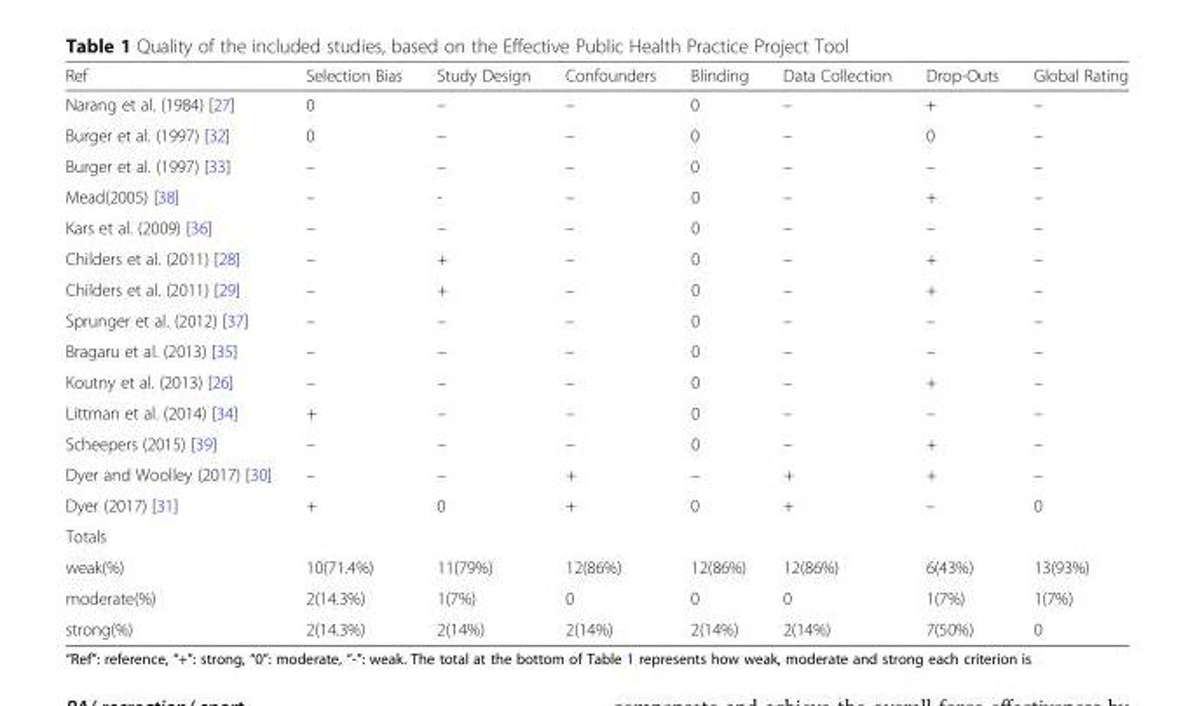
<table><thead><tr><td>Ref</td><td>Selection Bias</td><td>Study Design</td><td>Confounders</td><td>Blinding</td><td>Data Collection</td><td>Drop-Outs</td><td>Global Rating</td></tr></thead><tbody><tr><td>Narang et al. (1984) [27]</td><td>0</td><td>–</td><td>–</td><td>0</td><td>–</td><td>+</td><td>–</td></tr><tr><td>Burger et al. (1997) [32]</td><td>0</td><td>–</td><td>–</td><td>0</td><td>–</td><td>0</td><td>–</td></tr><tr><td>Burger et al. (1997) [33]</td><td>–</td><td>–</td><td>–</td><td>0</td><td>–</td><td>–</td><td>–</td></tr><tr><td>Mead(2005) [38]</td><td>–</td><td>-</td><td>–</td><td>0</td><td>–</td><td>+</td><td>–</td></tr><tr><td>Kars et al. (2009) [36]</td><td>–</td><td>–</td><td>–</td><td>0</td><td>–</td><td>–</td><td>–</td></tr><tr><td>Childers et al. (2011) [28]</td><td>–</td><td>+</td><td>–</td><td>0</td><td>–</td><td>+</td><td>–</td></tr><tr><td>Childers et al. (2011) [29]</td><td>–</td><td>+</td><td>–</td><td>0</td><td>–</td><td>+</td><td>–</td></tr><tr><td>Sprunger et al. (2012) [37]</td><td>–</td><td>–</td><td>–</td><td>0</td><td>–</td><td>–</td><td>–</td></tr><tr><td>Bragaru et al. (2013) [35]</td><td>–</td><td>–</td><td>–</td><td>0</td><td>–</td><td>–</td><td>–</td></tr><tr><td>Koutny et al. (2013) [26]</td><td>–</td><td>–</td><td>–</td><td>0</td><td>–</td><td>+</td><td>–</td></tr><tr><td>Littman et al. (2014) [34]</td><td>+</td><td>–</td><td>–</td><td>0</td><td>–</td><td>–</td><td>–</td></tr><tr><td>Scheepers (2015) [39]</td><td>–</td><td>–</td><td>–</td><td>0</td><td>–</td><td>+</td><td>–</td></tr><tr><td>Dyer and Woolley (2017) [30]</td><td>–</td><td>–</td><td>+</td><td>–</td><td>+</td><td>+</td><td>–</td></tr><tr><td>Dyer (2017) [31]</td><td>+</td><td>0</td><td>+</td><td>0</td><td>+</td><td>–</td><td>0</td></tr><tr><td colspan="8">Totals</td></tr><tr><td>weak(%)</td><td>10(71.4%)</td><td>11(79%)</td><td>12(86%)</td><td>12(86%)</td><td>12(86%)</td><td>6(43%)</td><td>13(93%)</td></tr><tr><td>moderate(%)</td><td>2(14.3%)</td><td>1(7%)</td><td>0</td><td>0</td><td>0</td><td>1(7%)</td><td>1(7%)</td></tr><tr><td>strong(%)</td><td>2(14.3%)</td><td>2(14%)</td><td>2(14%)</td><td>2(14%)</td><td>2(14%)</td><td>7(50%)</td><td>0</td></tr></tbody></table>